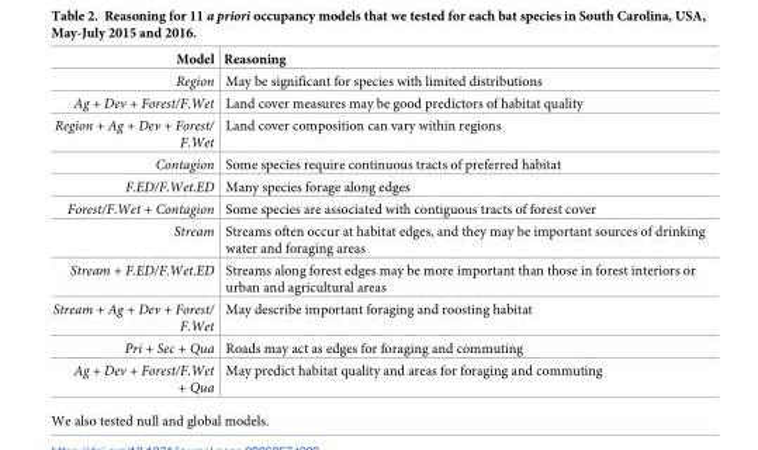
<table><thead><tr><td>Model</td><td>Reasoning</td></tr></thead><tbody><tr><td>Region</td><td>May be significant for species with limited distributions</td></tr><tr><td>Ag + Dev + Forest/F.Wet</td><td>Land cover measures may be good predictors of habitat quality</td></tr><tr><td>Region + Ag + Dev + Forest/ F.Wet</td><td>Land cover composition can vary within regions</td></tr><tr><td>Contagion</td><td>Some species require continuous tracts of preferred habitat</td></tr><tr><td>F.ED/F.Wet.ED</td><td>Many species forage along edges</td></tr><tr><td>Forest/F.Wet + Contagion</td><td>Some species are associated with contiguous tracts of forest cover</td></tr><tr><td>Stream</td><td>Streams often occur at habitat edges, and they may be important sources of drinking water and foraging areas</td></tr><tr><td>Stream + F.ED/F.Wet.ED</td><td>Streams along forest edges may be more important than those in forest interiors or urban and agricultural areas</td></tr><tr><td>Stream + Ag + Dev + Forest/ F.Wet</td><td>May describe important foraging and roosting habitat</td></tr><tr><td>Pri + Sec + Qua</td><td>Roads may act as edges for foraging and commuting</td></tr><tr><td>Ag + Dev + Forest/F.Wet + Qua</td><td>May predict habitat quality and areas for foraging and commuting</td></tr></tbody></table>